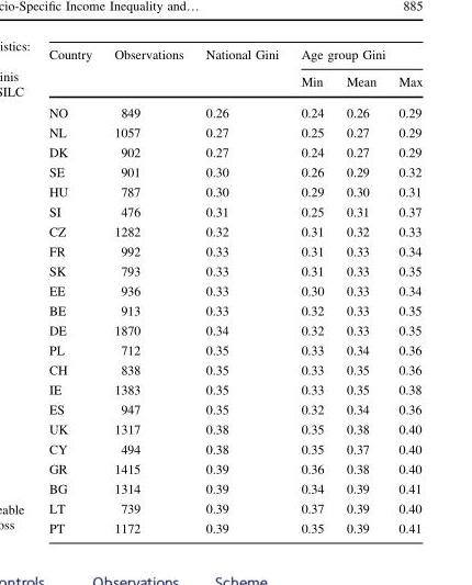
<table><thead><tr><td rowspan="2">Country</td><td rowspan="2">Observations</td><td rowspan="2">National Gini</td><td colspan="3">Age group Gini</td></tr><tr><td>Min</td><td>Mean</td><td>Max</td></tr></thead><tbody><tr><td>NO</td><td>849</td><td>0.26</td><td>0.24</td><td>0.26</td><td>0.29</td></tr><tr><td>NL</td><td>1057</td><td>0.27</td><td>0.25</td><td>0.27</td><td>0.29</td></tr><tr><td>DK</td><td>902</td><td>0.27</td><td>0.24</td><td>0.27</td><td>0.29</td></tr><tr><td>SE</td><td>901</td><td>0.30</td><td>0.26</td><td>0.29</td><td>0.32</td></tr><tr><td>HU</td><td>787</td><td>0.30</td><td>0.29</td><td>0.30</td><td>0.31</td></tr><tr><td>SI</td><td>476</td><td>0.31</td><td>0.25</td><td>0.31</td><td>0.37</td></tr><tr><td>CZ</td><td>1282</td><td>0.32</td><td>0.31</td><td>0.32</td><td>0.33</td></tr><tr><td>FR</td><td>992</td><td>0.33</td><td>0.31</td><td>0.33</td><td>0.34</td></tr><tr><td>SK</td><td>793</td><td>0.33</td><td>0.31</td><td>0.33</td><td>0.35</td></tr><tr><td>EE</td><td>936</td><td>0.33</td><td>0.30</td><td>0.33</td><td>0.34</td></tr><tr><td>BE</td><td>913</td><td>0.33</td><td>0.32</td><td>0.33</td><td>0.35</td></tr><tr><td>DE</td><td>1870</td><td>0.34</td><td>0.32</td><td>0.33</td><td>0.35</td></tr><tr><td>PL</td><td>712</td><td>0.35</td><td>0.33</td><td>0.34</td><td>0.36</td></tr><tr><td>CH</td><td>838</td><td>0.35</td><td>0.33</td><td>0.35</td><td>0.36</td></tr><tr><td>IE</td><td>1383</td><td>0.35</td><td>0.33</td><td>0.35</td><td>0.38</td></tr><tr><td>ES</td><td>947</td><td>0.35</td><td>0.32</td><td>0.34</td><td>0.36</td></tr><tr><td>UK</td><td>1317</td><td>0.38</td><td>0.35</td><td>0.38</td><td>0.40</td></tr><tr><td>CY</td><td>494</td><td>0.38</td><td>0.35</td><td>0.37</td><td>0.40</td></tr><tr><td>GR</td><td>1415</td><td>0.39</td><td>0.36</td><td>0.38</td><td>0.40</td></tr><tr><td>BG</td><td>1314</td><td>0.39</td><td>0.34</td><td>0.39</td><td>0.41</td></tr><tr><td>LT</td><td>739</td><td>0.39</td><td>0.37</td><td>0.39</td><td>0.40</td></tr><tr><td>PT</td><td>1172</td><td>0.39</td><td>0.35</td><td>0.39</td><td>0.41</td></tr></tbody></table>